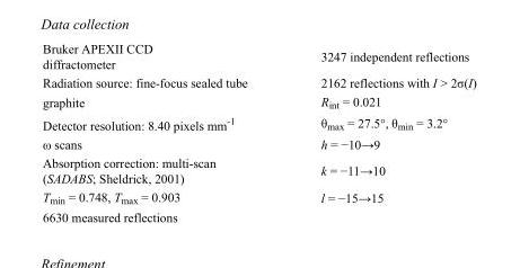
<table><tbody><tr><td>Bruker APEXII CCD diffractometer</td><td>3247 independent reflections</td></tr><tr><td>Radiation source: fine-focus sealed tube</td><td>2162 reflections with I &gt; 2σ(I)</td></tr><tr><td>graphite</td><td>R<sub>int</sub> = 0.021</td></tr><tr><td>Detector resolution: 8.40 pixels mm<sup>-1</sup></td><td>θ<sub>max</sub> = 27.5°, θ<sub>min</sub> = 3.2°</td></tr><tr><td>ω scans</td><td>h = −10→9</td></tr><tr><td>Absorption correction: multi-scan (SADABS; Sheldrick, 2001)</td><td>k = −11→10</td></tr><tr><td>T<sub>min</sub> = 0.748, T<sub>max</sub> = 0.903</td><td>l = −15→15</td></tr><tr><td>6630 measured reflections</td><td></td></tr></tbody></table>